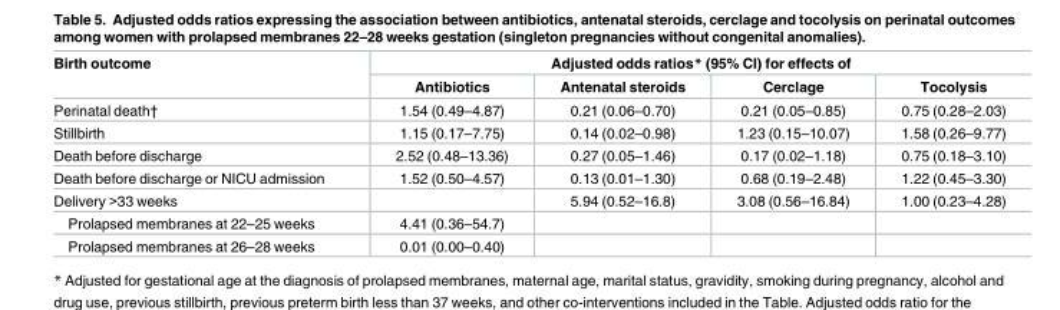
<table><thead><tr><td rowspan="2">Birth outcome</td><td colspan="4">Adjusted odds ratios* (95% CI) for effects of</td></tr><tr><td>Antibiotics</td><td>Antenatal steroids</td><td>Cerclage</td><td>Tocolysis</td></tr></thead><tbody><tr><td>Perinatal death†</td><td>1.54 (0.49–4.87)</td><td>0.21 (0.06–0.70)</td><td>0.21 (0.05–0.85)</td><td>0.75 (0.28–2.03)</td></tr><tr><td>Stillbirth</td><td>1.15 (0.17–7.75)</td><td>0.14 (0.02–0.98)</td><td>1.23 (0.15–10.07)</td><td>1.58 (0.26–9.77)</td></tr><tr><td>Death before discharge</td><td>2.52 (0.48–13.36)</td><td>0.27 (0.05–1.46)</td><td>0.17 (0.02–1.18)</td><td>0.75 (0.18–3.10)</td></tr><tr><td>Death before discharge or NICU admission</td><td>1.52 (0.50–4.57)</td><td>0.13 (0.01–1.30)</td><td>0.68 (0.19–2.48)</td><td>1.22 (0.45–3.30)</td></tr><tr><td>Delivery &gt;33 weeks</td><td></td><td>5.94 (0.52–16.8)</td><td>3.08 (0.56–16.84)</td><td>1.00 (0.23–4.28)</td></tr><tr><td>Prolapsed membranes at 22–25 weeks</td><td>4.41 (0.36–54.7)</td><td></td><td></td><td></td></tr><tr><td>Prolapsed membranes at 26–28 weeks</td><td>0.01 (0.00–0.40)</td><td></td><td></td><td></td></tr></tbody></table>